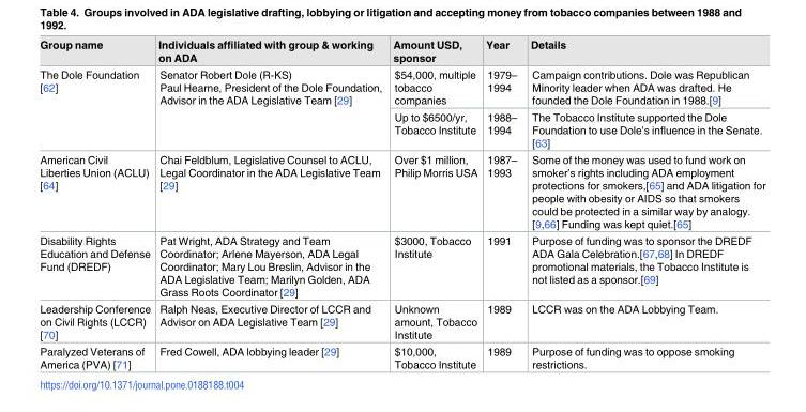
<table><thead><tr><td>Group name</td><td>Individuals affiliated with group &amp; working on ADA</td><td>Amount USD, sponsor</td><td>Year</td><td>Details</td></tr></thead><tbody><tr><td rowspan="2">The Dole Foundation [62]</td><td rowspan="2">Senator Robert Dole (R-KS) Paul Hearne, President of the Dole Foundation, Advisor in the ADA Legislative Team [29]</td><td>$54,000, multiple tobacco companies</td><td>1979– 1994</td><td>Campaign contributions. Dole was Republican Minority leader when ADA was drafted. He founded the Dole Foundation in 1988.[9]</td></tr><tr><td>Up to $6500/yr, Tobacco Institute</td><td>1988– 1994</td><td>The Tobacco Institute supported the Dole Foundation to use Dole’s influence in the Senate. [63]</td></tr><tr><td>American Civil Liberties Union (ACLU) [64]</td><td>Chai Feldblum, Legislative Counsel to ACLU, Legal Coordinator in the ADA Legislative Team [29]</td><td>Over $1 million, Philip Morris USA</td><td>1987– 1993</td><td>Some of the money was used to fund work on smoker’s rights including ADA employment protections for smokers,[65] and ADA litigation for people with obesity or AIDS so that smokers could be protected in a similar way by analogy. [9,66] Funding was kept quiet.[65]</td></tr><tr><td>Disability Rights Education and Defense Fund (DREDF)</td><td>Pat Wright, ADA Strategy and Team Coordinator; Arlene Mayerson, ADA Legal Coordinator; Mary Lou Breslin, Advisor in the ADA Legislative Team; Marilyn Golden, ADA Grass Roots Coordinator [29]</td><td>$3000, Tobacco Institute</td><td>1991</td><td>Purpose of funding was to sponsor the DREDF ADA Gala Celebration.[67,68] In DREDF promotional materials, the Tobacco Institute is not listed as a sponsor.[69]</td></tr><tr><td>Leadership Conference on Civil Rights (LCCR) [70]</td><td>Ralph Neas, Executive Director of LCCR and Advisor on ADA Legislative Team [29]</td><td>Unknown amount, Tobacco Institute</td><td>1989</td><td>LCCR was on the ADA Lobbying Team.</td></tr><tr><td>Paralyzed Veterans of America (PVA) [71]</td><td>Fred Cowell, ADA lobbying leader [29]</td><td>$10,000, Tobacco Institute</td><td>1989</td><td>Purpose of funding was to oppose smoking restrictions.</td></tr></tbody></table>